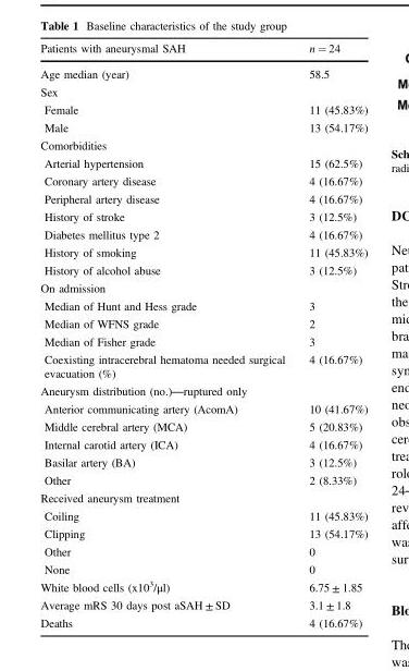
<table><thead><tr><td>Patients with aneurysmal SAH</td><td>n = 24</td></tr></thead><tbody><tr><td>Age median (year)</td><td>58.5</td></tr><tr><td colspan="2">Sex</td></tr><tr><td>Female</td><td>11 (45.83%)</td></tr><tr><td>Male</td><td>13 (54.17%)</td></tr><tr><td colspan="2">Comorbidities</td></tr><tr><td>Arterial hypertension</td><td>15 (62.5%)</td></tr><tr><td>Coronary artery disease</td><td>4 (16.67%)</td></tr><tr><td>Peripheral artery disease</td><td>4 (16.67%)</td></tr><tr><td>History of stroke</td><td>3 (12.5%)</td></tr><tr><td>Diabetes mellitus type 2</td><td>4 (16.67%)</td></tr><tr><td>History of smoking</td><td>11 (45.83%)</td></tr><tr><td>History of alcohol abuse</td><td>3 (12.5%)</td></tr><tr><td colspan="2">On admission</td></tr><tr><td>Median of Hunt and Hess grade</td><td>3</td></tr><tr><td>Median of WFNS grade</td><td>2</td></tr><tr><td>Median of Fisher grade</td><td>3</td></tr><tr><td>Coexisting intracerebral hematoma needed surgical evacuation (%)</td><td>4 (16.67%)</td></tr><tr><td colspan="2">Aneurysm distribution (no.)—ruptured only</td></tr><tr><td>Anterior communicating artery (AcomA)</td><td>10 (41.67%)</td></tr><tr><td>Middle cerebral artery (MCA)</td><td>5 (20.83%)</td></tr><tr><td>Internal carotid artery (ICA)</td><td>4 (16.67%)</td></tr><tr><td>Basilar artery (BA)</td><td>3 (12.5%)</td></tr><tr><td>Other</td><td>2 (8.33%)</td></tr><tr><td colspan="2">Received aneurysm treatment</td></tr><tr><td>Coiling</td><td>11 (45.83%)</td></tr><tr><td>Clipping</td><td>13 (54.17%)</td></tr><tr><td>Other</td><td>0</td></tr><tr><td>None</td><td>0</td></tr><tr><td>White blood cells (x10<sup>3</sup>/μl)</td><td>6.75 ± 1.85</td></tr><tr><td>Average mRS 30 days post aSAH ± SD</td><td>3.1 ± 1.8</td></tr><tr><td>Deaths</td><td>4 (16.67%)</td></tr></tbody></table>